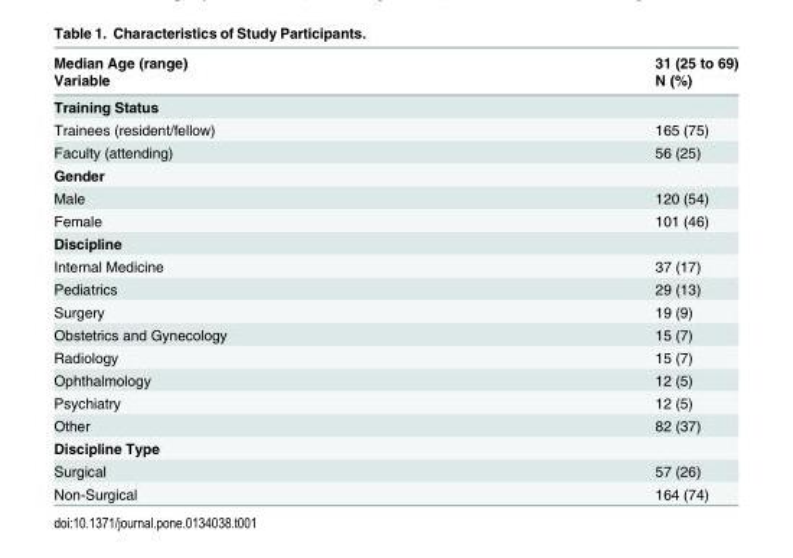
<table><thead><tr><td rowspan="2">Median Age (range) Variable</td><td rowspan="2">31 (25 to 69) N (%)</td></tr><tr></tr></thead><tbody><tr><td colspan="2">Training Status</td></tr><tr><td>Trainees (resident/fellow)</td><td>165 (75)</td></tr><tr><td>Faculty (attending)</td><td>56 (25)</td></tr><tr><td colspan="2">Gender</td></tr><tr><td>Male</td><td>120 (54)</td></tr><tr><td>Female</td><td>101 (46)</td></tr><tr><td colspan="2">Discipline</td></tr><tr><td>Internal Medicine</td><td>37 (17)</td></tr><tr><td>Pediatrics</td><td>29 (13)</td></tr><tr><td>Surgery</td><td>19 (9)</td></tr><tr><td>Obstetrics and Gynecology</td><td>15 (7)</td></tr><tr><td>Radiology</td><td>15 (7)</td></tr><tr><td>Ophthalmology</td><td>12 (5)</td></tr><tr><td>Psychiatry</td><td>12 (5)</td></tr><tr><td>Other</td><td>82 (37)</td></tr><tr><td colspan="2">Discipline Type</td></tr><tr><td>Surgical</td><td>57 (26)</td></tr><tr><td>Non-Surgical</td><td>164 (74)</td></tr></tbody></table>